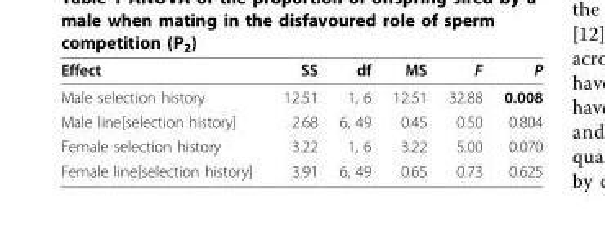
<table><thead><tr><td>Effect</td><td>SS</td><td>df</td><td>MS</td><td>F</td><td>P</td></tr></thead><tbody><tr><td>Male selection history</td><td>12.51</td><td>1, 6</td><td>12.51</td><td>32.88</td><td>0.008</td></tr><tr><td>Male line[selection history]</td><td>2.68</td><td>6, 49</td><td>0.45</td><td>0.50</td><td>0.804</td></tr><tr><td>Female selection history</td><td>3.22</td><td>1, 6</td><td>3.22</td><td>5.00</td><td>0.070</td></tr><tr><td>Female line[selection history]</td><td>3.91</td><td>6, 49</td><td>0.65</td><td>0.73</td><td>0.625</td></tr></tbody></table>